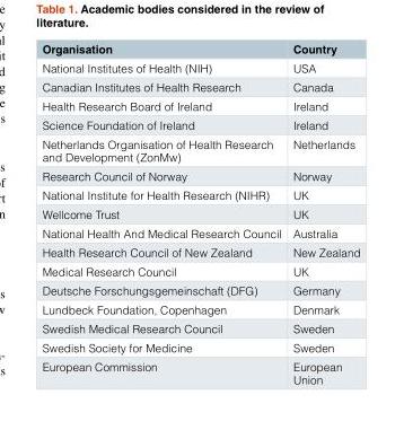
<table><thead><tr><td>Organisation</td><td>Country</td></tr></thead><tbody><tr><td>National Institutes of Health (NIH)</td><td>USA</td></tr><tr><td>Canadian Institutes of Health Research</td><td>Canada</td></tr><tr><td>Health Research Board of Ireland</td><td>Ireland</td></tr><tr><td>Science Foundation of Ireland</td><td>Ireland</td></tr><tr><td>Netherlands Organisation of Health Research and Development (ZonMw)</td><td>Netherlands</td></tr><tr><td>Research Council of Norway</td><td>Norway</td></tr><tr><td>National Institute for Health Research (NIHR)</td><td>UK</td></tr><tr><td>Wellcome Trust</td><td>UK</td></tr><tr><td>National Health And Medical Research Council</td><td>Australia</td></tr><tr><td>Health Research Council of New Zealand</td><td>New Zealand</td></tr><tr><td>Medical Research Council</td><td>UK</td></tr><tr><td>Deutsche Forschungsgemeinschaft (DFG)</td><td>Germany</td></tr><tr><td>Lundbeck Foundation, Copenhagen</td><td>Denmark</td></tr><tr><td>Swedish Medical Research Council</td><td>Sweden</td></tr><tr><td>Swedish Society for Medicine</td><td>Sweden</td></tr><tr><td>European Commission</td><td>European Union</td></tr></tbody></table>